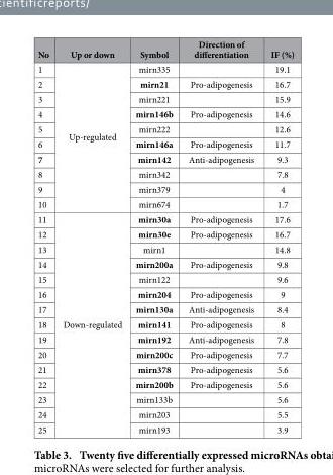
<table><thead><tr><td>No</td><td>Up or down</td><td>Symbol</td><td>Direction of differentiation</td><td>IF (%)</td></tr></thead><tbody><tr><td>1</td><td rowspan="10">Up-regulated</td><td>mirn335</td><td></td><td>19.1</td></tr><tr><td>2</td><td>mirn21</td><td>Pro-adipogenesis</td><td>16.7</td></tr><tr><td>3</td><td>mirn221</td><td></td><td>15.9</td></tr><tr><td>4</td><td>mirn146b</td><td>Pro-adipogenesis</td><td>14.6</td></tr><tr><td>5</td><td>mirn222</td><td></td><td>12.6</td></tr><tr><td>6</td><td>mirn146a</td><td>Pro-adipogenesis</td><td>11.7</td></tr><tr><td>7</td><td>mirn142</td><td>Anti-adipogenesis</td><td>9.3</td></tr><tr><td>8</td><td>mirn342</td><td></td><td>7.8</td></tr><tr><td>9</td><td>mirn379</td><td></td><td>4</td></tr><tr><td>10</td><td>mirn674</td><td></td><td>1.7</td></tr><tr><td>11</td><td rowspan="15">Down-regulated</td><td>mirn30a</td><td>Pro-adipogenesis</td><td>17.6</td></tr><tr><td>12</td><td>mirn30e</td><td>Pro-adipogenesis</td><td>16.7</td></tr><tr><td>13</td><td>mirn1</td><td></td><td>14.8</td></tr><tr><td>14</td><td>mirn200a</td><td>Pro-adipogenesis</td><td>9.8</td></tr><tr><td>15</td><td>mirn122</td><td></td><td>9.6</td></tr><tr><td>16</td><td>mirn204</td><td>Pro-adipogenesis</td><td>9</td></tr><tr><td>17</td><td>mirn130a</td><td>Anti-adipogenesis</td><td>8.4</td></tr><tr><td>18</td><td>mirn141</td><td>Pro-adipogenesis</td><td>8</td></tr><tr><td>19</td><td>mirn192</td><td>Anti-adipogenesis</td><td>7.8</td></tr><tr><td>20</td><td>mirn200c</td><td>Pro-adipogenesis</td><td>7.7</td></tr><tr><td>21</td><td>mirn378</td><td>Pro-adipogenesis</td><td>5.6</td></tr><tr><td>22</td><td>mirn200b</td><td>Pro-adipogenesis</td><td>5.6</td></tr><tr><td>23</td><td>mirn133b</td><td></td><td>5.6</td></tr><tr><td>24</td><td>mirn203</td><td></td><td>5.5</td></tr><tr><td>25</td><td>mirn193</td><td></td><td>3.9</td></tr></tbody></table>